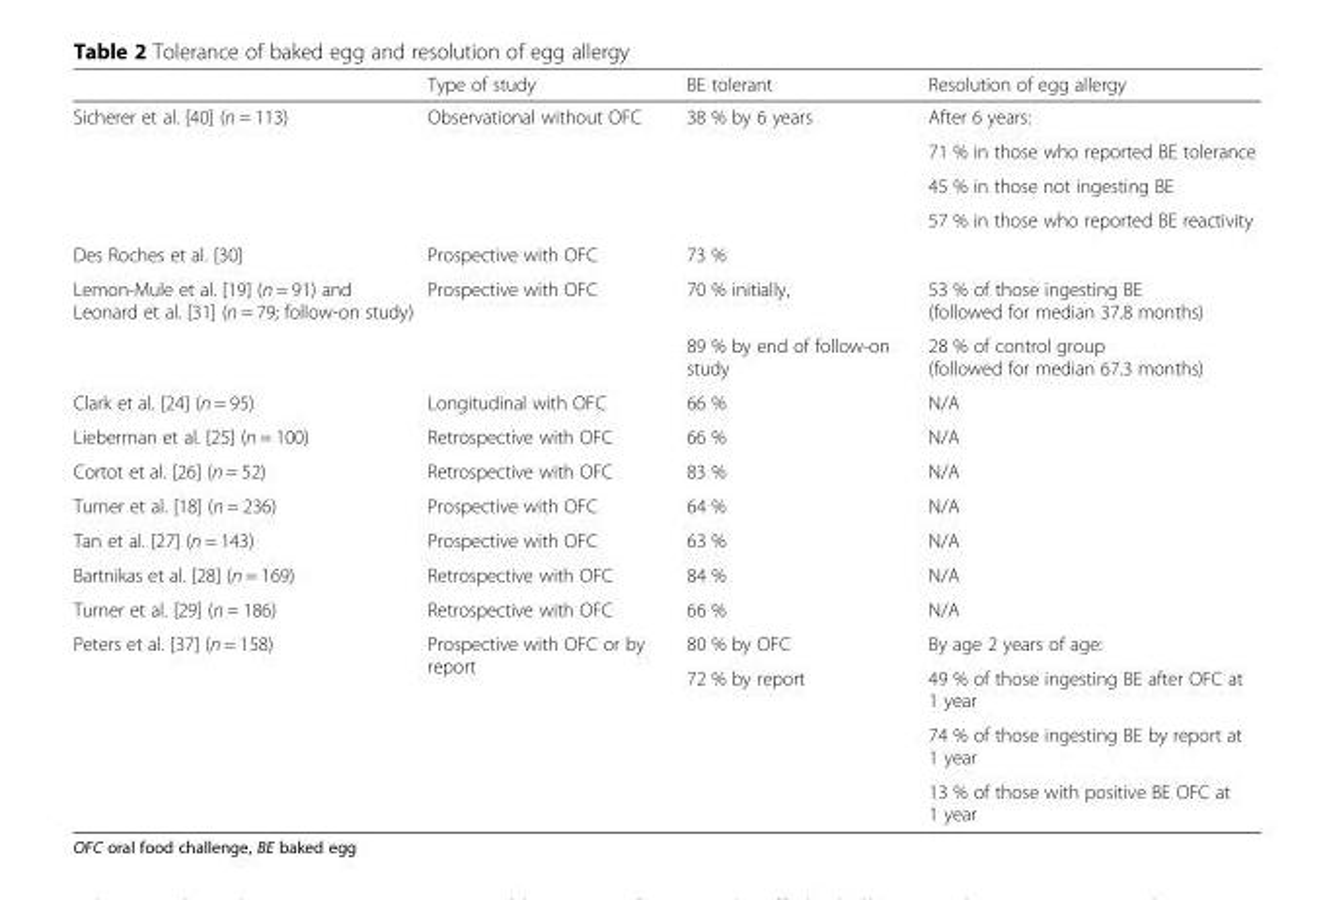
<table><thead><tr><td></td><td>Type of study</td><td>BE tolerant</td><td>Resolution of egg allergy</td></tr></thead><tbody><tr><td rowspan="4">Sicherer et al. [40] (n = 113)</td><td rowspan="4">Observational without OFC</td><td rowspan="4">38 % by 6 years</td><td>After 6 years:</td></tr><tr><td>71 % in those who reported BE tolerance</td></tr><tr><td>45 % in those not ingesting BE</td></tr><tr><td>57 % in those who reported BE reactivity</td></tr><tr><td>Des Roches et al. [30]</td><td>Prospective with OFC</td><td>73 %</td><td></td></tr><tr><td rowspan="2">Lemon-Mule et al. [19] (n = 91) and Leonard et al. [31] (n = 79; follow-on study)</td><td rowspan="2">Prospective with OFC</td><td>70 % initially,</td><td>53 % of those ingesting BE (followed for median 37.8 months)</td></tr><tr><td>89 % by end of follow-on study</td><td>28 % of control group (followed for median 67.3 months)</td></tr><tr><td>Clark et al. [24] (n = 95)</td><td>Longitudinal with OFC</td><td>66 %</td><td>N/A</td></tr><tr><td>Lieberman et al. [25] (n = 100)</td><td>Retrospective with OFC</td><td>66 %</td><td>N/A</td></tr><tr><td>Cortot et al. [26] (n = 52)</td><td>Retrospective with OFC</td><td>83 %</td><td>N/A</td></tr><tr><td>Turner et al. [18] (n = 236)</td><td>Prospective with OFC</td><td>64 %</td><td>N/A</td></tr><tr><td>Tan et al. [27] (n = 143)</td><td>Prospective with OFC</td><td>63 %</td><td>N/A</td></tr><tr><td>Bartnikas et al. [28] (n = 169)</td><td>Retrospective with OFC</td><td>84 %</td><td>N/A</td></tr><tr><td>Turner et al. [29] (n = 186)</td><td>Retrospective with OFC</td><td>66 %</td><td>N/A</td></tr><tr><td rowspan="4">Peters et al. [37] (n = 158)</td><td rowspan="4">Prospective with OFC or by report</td><td>80 % by OFC</td><td>By age 2 years of age:</td></tr><tr><td rowspan="3">72 % by report</td><td>49 % of those ingesting BE after OFC at 1 year</td></tr><tr><td>74 % of those ingesting BE by report at 1 year</td></tr><tr><td>13 % of those with positive BE OFC at 1 year</td></tr></tbody></table>